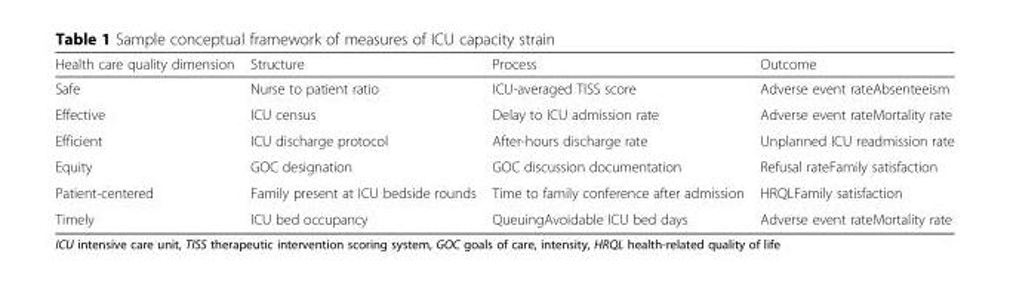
<table><thead><tr><td>Health care quality dimension</td><td>Structure</td><td>Process</td><td>Outcome</td></tr></thead><tbody><tr><td>Safe</td><td>Nurse to patient ratio</td><td>ICU-averaged TISS score</td><td>Adverse event rateAbsenteeism</td></tr><tr><td>Effective</td><td>ICU census</td><td>Delay to ICU admission rate</td><td>Adverse event rateMortality rate</td></tr><tr><td>Efficient</td><td>ICU discharge protocol</td><td>After-hours discharge rate</td><td>Unplanned ICU readmission rate</td></tr><tr><td>Equity</td><td>GOC designation</td><td>GOC discussion documentation</td><td>Refusal rateFamily satisfaction</td></tr><tr><td>Patient-centered</td><td>Family present at ICU bedside rounds</td><td>Time to family conference after admission</td><td>HRQLFamily satisfaction</td></tr><tr><td>Timely</td><td>ICU bed occupancy</td><td>QueuingAvoidable ICU bed days</td><td>Adverse event rateMortality rate</td></tr></tbody></table>